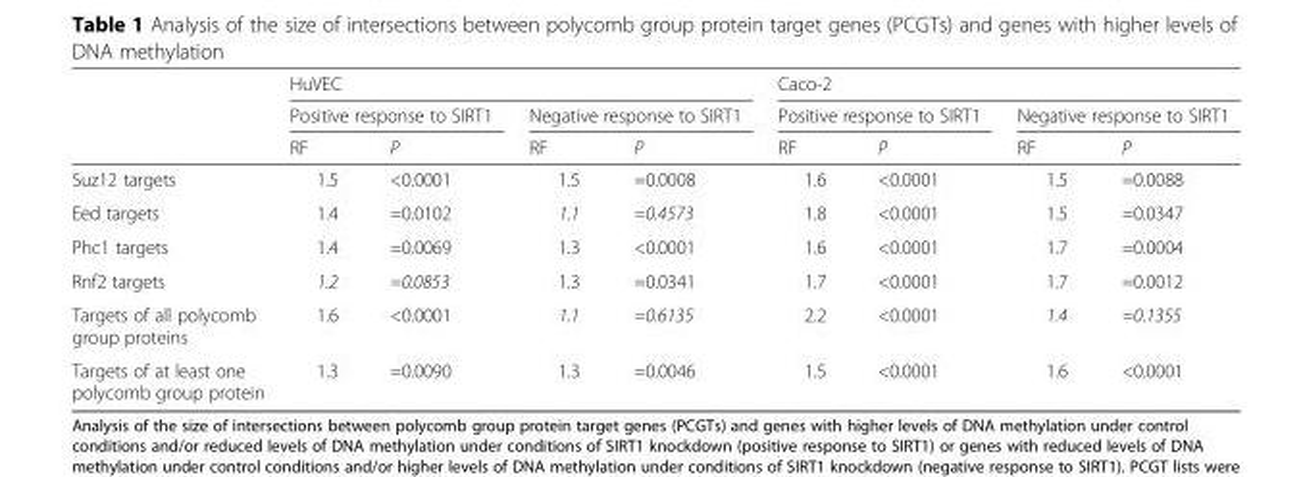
<table><thead><tr><td rowspan="3"></td><td colspan="4">HuVEC</td><td colspan="4">Caco-2</td></tr><tr><td colspan="2">Positive response to SIRT1</td><td colspan="2">Negative response to SIRT1</td><td colspan="2">Positive response to SIRT1</td><td colspan="2">Negative response to SIRT1</td></tr><tr><td>RF</td><td>P</td><td>RF</td><td>P</td><td>RF</td><td>P</td><td>RF</td><td>P</td></tr></thead><tbody><tr><td>Suz12 targets</td><td>1.5</td><td>&lt;0.0001</td><td>1.5</td><td>=0.0008</td><td>1.6</td><td>&lt;0.0001</td><td>1.5</td><td>=0.0088</td></tr><tr><td>Eed targets</td><td>1.4</td><td>=0.0102</td><td>1.1</td><td>=0.4573</td><td>1.8</td><td>&lt;0.0001</td><td>1.5</td><td>=0.0347</td></tr><tr><td>Phc1 targets</td><td>1.4</td><td>=0.0069</td><td>1.3</td><td>&lt;0.0001</td><td>1.6</td><td>&lt;0.0001</td><td>1.7</td><td>=0.0004</td></tr><tr><td>Rnf2 targets</td><td>1.2</td><td>=0.0853</td><td>1.3</td><td>=0.0341</td><td>1.7</td><td>&lt;0.0001</td><td>1.7</td><td>=0.0012</td></tr><tr><td>Targets of all polycomb group proteins</td><td>1.6</td><td>&lt;0.0001</td><td>1.1</td><td>=0.6135</td><td>2.2</td><td>&lt;0.0001</td><td>1.4</td><td>=0.1355</td></tr><tr><td>Targets of at least one polycomb group protein</td><td>1.3</td><td>=0.0090</td><td>1.3</td><td>=0.0046</td><td>1.5</td><td>&lt;0.0001</td><td>1.6</td><td>&lt;0.0001</td></tr></tbody></table>